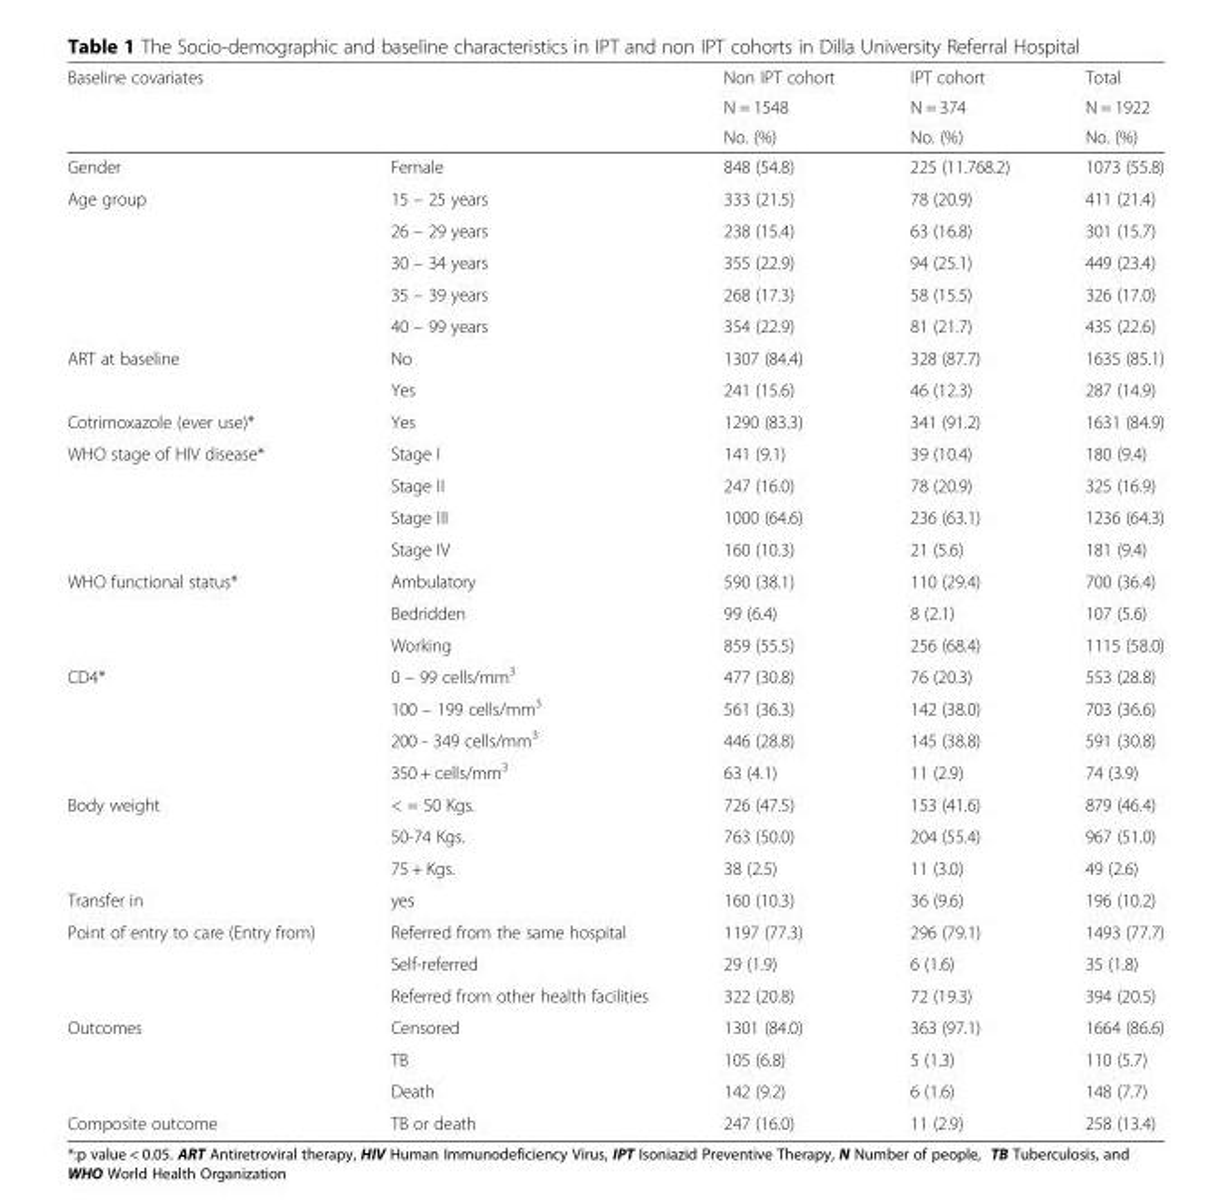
<table><thead><tr><td rowspan="3" colspan="2">Baseline covariates</td><td rowspan="4">Non IPT cohort N = 1548 No. (%) 848 (54.8)</td><td rowspan="4">IPT cohort N = 374 No. (%) 225 (11.768.2)</td><td rowspan="4">Total N = 1922 No. (%) 1073 (55.8)</td></tr><tr></tr><tr></tr><tr><td>Gender</td><td>Female</td></tr></thead><tbody><tr><td rowspan="5">Age group</td><td>15 – 25 years</td><td>333 (21.5)</td><td>78 (20.9)</td><td>411 (21.4)</td></tr><tr><td>26 – 29 years</td><td>238 (15.4)</td><td>63 (16.8)</td><td>301 (15.7)</td></tr><tr><td>30 – 34 years</td><td>355 (22.9)</td><td>94 (25.1)</td><td>449 (23.4)</td></tr><tr><td>35 – 39 years</td><td>268 (17.3)</td><td>58 (15.5)</td><td>326 (17.0)</td></tr><tr><td>40 – 99 years</td><td>354 (22.9)</td><td>81 (21.7)</td><td>435 (22.6)</td></tr><tr><td rowspan="2">ART at baseline</td><td>No</td><td>1307 (84.4)</td><td>328 (87.7)</td><td>1635 (85.1)</td></tr><tr><td>Yes</td><td>241 (15.6)</td><td>46 (12.3)</td><td>287 (14.9)</td></tr><tr><td>Cotrimoxazole (ever use)*</td><td>Yes</td><td>1290 (83.3)</td><td>341 (91.2)</td><td>1631 (84.9)</td></tr><tr><td rowspan="4">WHO stage of HIV disease*</td><td>Stage I</td><td>141 (9.1)</td><td>39 (10.4)</td><td>180 (9.4)</td></tr><tr><td>Stage II</td><td>247 (16.0)</td><td>78 (20.9)</td><td>325 (16.9)</td></tr><tr><td>Stage III</td><td>1000 (64.6)</td><td>236 (63.1)</td><td>1236 (64.3)</td></tr><tr><td>Stage IV</td><td>160 (10.3)</td><td>21 (5.6)</td><td>181 (9.4)</td></tr><tr><td rowspan="3">WHO functional status*</td><td>Ambulatory</td><td>590 (38.1)</td><td>110 (29.4)</td><td>700 (36.4)</td></tr><tr><td>Bedridden</td><td>99 (6.4)</td><td>8 (2.1)</td><td>107 (5.6)</td></tr><tr><td>Working</td><td>859 (55.5)</td><td>256 (68.4)</td><td>1115 (58.0)</td></tr><tr><td rowspan="4">CD4*</td><td>0 – 99 cells/mm<sup>3</sup></td><td>477 (30.8)</td><td>76 (20.3)</td><td>553 (28.8)</td></tr><tr><td>100 – 199 cells/mm<sup>3</sup></td><td>561 (36.3)</td><td>142 (38.0)</td><td>703 (36.6)</td></tr><tr><td>200 - 349 cells/mm<sup>3</sup></td><td>446 (28.8)</td><td>145 (38.8)</td><td>591 (30.8)</td></tr><tr><td>350 + cells/mm<sup>3</sup></td><td>63 (4.1)</td><td>11 (2.9)</td><td>74 (3.9)</td></tr><tr><td rowspan="3">Body weight</td><td>&lt; = 50 Kgs.</td><td>726 (47.5)</td><td>153 (41.6)</td><td>879 (46.4)</td></tr><tr><td>50-74 Kgs.</td><td>763 (50.0)</td><td>204 (55.4)</td><td>967 (51.0)</td></tr><tr><td>75 + Kgs.</td><td>38 (2.5)</td><td>11 (3.0)</td><td>49 (2.6)</td></tr><tr><td>Transfer in</td><td>yes</td><td>160 (10.3)</td><td>36 (9.6)</td><td>196 (10.2)</td></tr><tr><td rowspan="3">Point of entry to care (Entry from)</td><td>Referred from the same hospital</td><td>1197 (77.3)</td><td>296 (79.1)</td><td>1493 (77.7)</td></tr><tr><td>Self-referred</td><td>29 (1.9)</td><td>6 (1.6)</td><td>35 (1.8)</td></tr><tr><td>Referred from other health facilities</td><td>322 (20.8)</td><td>72 (19.3)</td><td>394 (20.5)</td></tr><tr><td rowspan="3">Outcomes</td><td>Censored</td><td>1301 (84.0)</td><td>363 (97.1)</td><td>1664 (86.6)</td></tr><tr><td>TB</td><td>105 (6.8)</td><td>5 (1.3)</td><td>110 (5.7)</td></tr><tr><td>Death</td><td>142 (9.2)</td><td>6 (1.6)</td><td>148 (7.7)</td></tr><tr><td>Composite outcome</td><td>TB or death</td><td>247 (16.0)</td><td>11 (2.9)</td><td>258 (13.4)</td></tr></tbody></table>